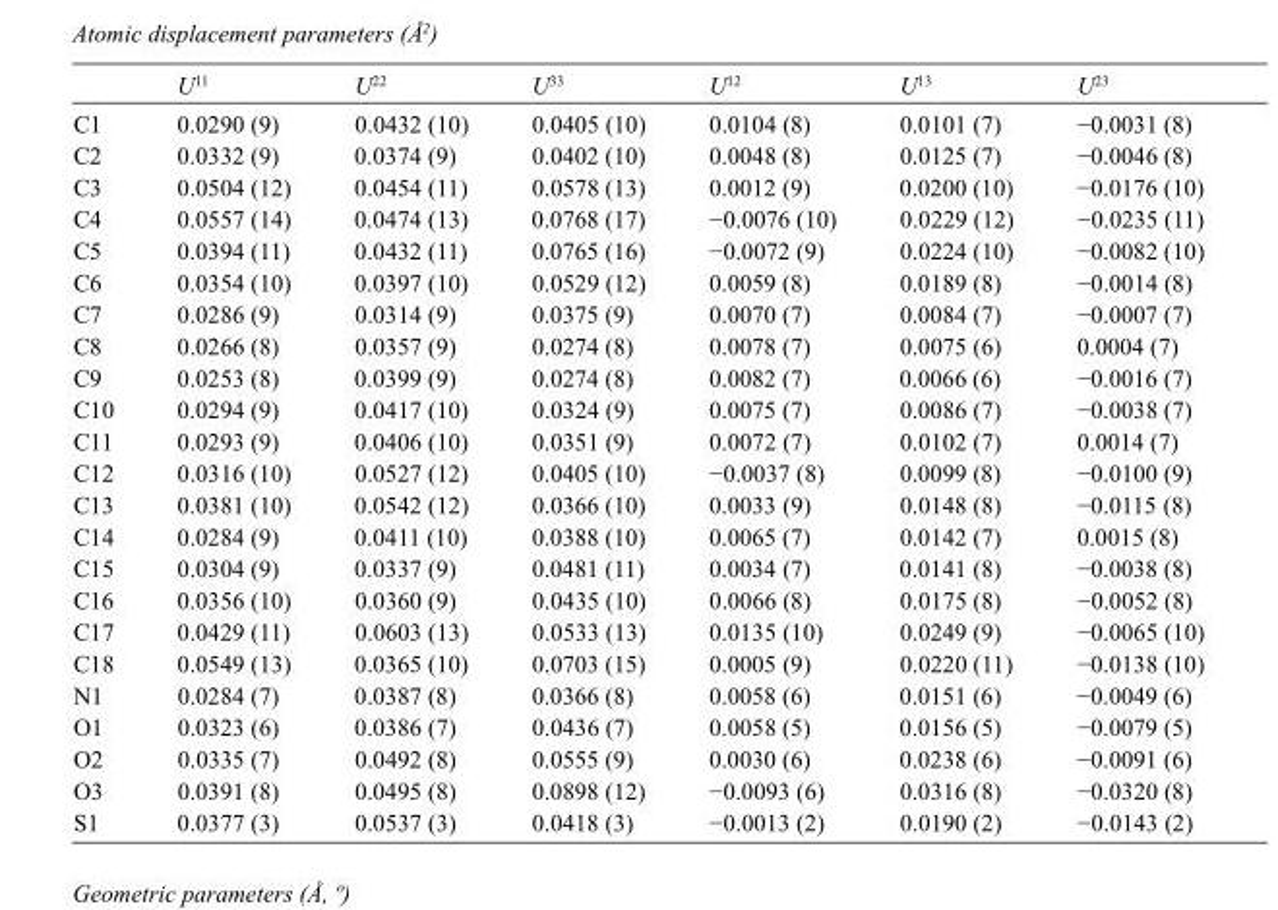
<table><thead><tr><td></td><td>U<sup>11</sup></td><td>U<sup>22</sup></td><td>U<sup>33</sup></td><td>U<sup>12</sup></td><td>U<sup>13</sup></td><td>U<sup>23</sup></td></tr></thead><tbody><tr><td>C1</td><td>0.0290 (9)</td><td>0.0432 (10)</td><td>0.0405 (10)</td><td>0.0104 (8)</td><td>0.0101 (7)</td><td>−0.0031 (8)</td></tr><tr><td>C2</td><td>0.0332 (9)</td><td>0.0374 (9)</td><td>0.0402 (10)</td><td>0.0048 (8)</td><td>0.0125 (7)</td><td>−0.0046 (8)</td></tr><tr><td>C3</td><td>0.0504 (12)</td><td>0.0454 (11)</td><td>0.0578 (13)</td><td>0.0012 (9)</td><td>0.0200 (10)</td><td>−0.0176 (10)</td></tr><tr><td>C4</td><td>0.0557 (14)</td><td>0.0474 (13)</td><td>0.0768 (17)</td><td>−0.0076 (10)</td><td>0.0229 (12)</td><td>−0.0235 (11)</td></tr><tr><td>C5</td><td>0.0394 (11)</td><td>0.0432 (11)</td><td>0.0765 (16)</td><td>−0.0072 (9)</td><td>0.0224 (10)</td><td>−0.0082 (10)</td></tr><tr><td>C6</td><td>0.0354 (10)</td><td>0.0397 (10)</td><td>0.0529 (12)</td><td>0.0059 (8)</td><td>0.0189 (8)</td><td>−0.0014 (8)</td></tr><tr><td>C7</td><td>0.0286 (9)</td><td>0.0314 (9)</td><td>0.0375 (9)</td><td>0.0070 (7)</td><td>0.0084 (7)</td><td>−0.0007 (7)</td></tr><tr><td>C8</td><td>0.0266 (8)</td><td>0.0357 (9)</td><td>0.0274 (8)</td><td>0.0078 (7)</td><td>0.0075 (6)</td><td>0.0004 (7)</td></tr><tr><td>C9</td><td>0.0253 (8)</td><td>0.0399 (9)</td><td>0.0274 (8)</td><td>0.0082 (7)</td><td>0.0066 (6)</td><td>−0.0016 (7)</td></tr><tr><td>C10</td><td>0.0294 (9)</td><td>0.0417 (10)</td><td>0.0324 (9)</td><td>0.0075 (7)</td><td>0.0086 (7)</td><td>−0.0038 (7)</td></tr><tr><td>C11</td><td>0.0293 (9)</td><td>0.0406 (10)</td><td>0.0351 (9)</td><td>0.0072 (7)</td><td>0.0102 (7)</td><td>0.0014 (7)</td></tr><tr><td>C12</td><td>0.0316 (10)</td><td>0.0527 (12)</td><td>0.0405 (10)</td><td>−0.0037 (8)</td><td>0.0099 (8)</td><td>−0.0100 (9)</td></tr><tr><td>C13</td><td>0.0381 (10)</td><td>0.0542 (12)</td><td>0.0366 (10)</td><td>0.0033 (9)</td><td>0.0148 (8)</td><td>−0.0115 (8)</td></tr><tr><td>C14</td><td>0.0284 (9)</td><td>0.0411 (10)</td><td>0.0388 (10)</td><td>0.0065 (7)</td><td>0.0142 (7)</td><td>0.0015 (8)</td></tr><tr><td>C15</td><td>0.0304 (9)</td><td>0.0337 (9)</td><td>0.0481 (11)</td><td>0.0034 (7)</td><td>0.0141 (8)</td><td>−0.0038 (8)</td></tr><tr><td>C16</td><td>0.0356 (10)</td><td>0.0360 (9)</td><td>0.0435 (10)</td><td>0.0066 (8)</td><td>0.0175 (8)</td><td>−0.0052 (8)</td></tr><tr><td>C17</td><td>0.0429 (11)</td><td>0.0603 (13)</td><td>0.0533 (13)</td><td>0.0135 (10)</td><td>0.0249 (9)</td><td>−0.0065 (10)</td></tr><tr><td>C18</td><td>0.0549 (13)</td><td>0.0365 (10)</td><td>0.0703 (15)</td><td>0.0005 (9)</td><td>0.0220 (11)</td><td>−0.0138 (10)</td></tr><tr><td>N1</td><td>0.0284 (7)</td><td>0.0387 (8)</td><td>0.0366 (8)</td><td>0.0058 (6)</td><td>0.0151 (6)</td><td>−0.0049 (6)</td></tr><tr><td>O1</td><td>0.0323 (6)</td><td>0.0386 (7)</td><td>0.0436 (7)</td><td>0.0058 (5)</td><td>0.0156 (5)</td><td>−0.0079 (5)</td></tr><tr><td>O2</td><td>0.0335 (7)</td><td>0.0492 (8)</td><td>0.0555 (9)</td><td>0.0030 (6)</td><td>0.0238 (6)</td><td>−0.0091 (6)</td></tr><tr><td>O3</td><td>0.0391 (8)</td><td>0.0495 (8)</td><td>0.0898 (12)</td><td>−0.0093 (6)</td><td>0.0316 (8)</td><td>−0.0320 (8)</td></tr><tr><td>S1</td><td>0.0377 (3)</td><td>0.0537 (3)</td><td>0.0418 (3)</td><td>−0.0013 (2)</td><td>0.0190 (2)</td><td>−0.0143 (2)</td></tr></tbody></table>